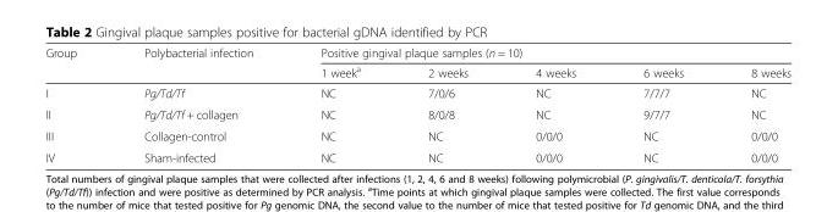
<table><thead><tr><td rowspan="2">Group</td><td rowspan="2">Polybacterial infection</td><td colspan="5">Positive gingival plaque samples (n = 10)</td></tr><tr><td>1 week<sup>a</sup></td><td>2 weeks</td><td>4 weeks</td><td>6 weeks</td><td>8 weeks</td></tr></thead><tbody><tr><td>I</td><td>Pg/Td/Tf</td><td>NC</td><td>7/0/6</td><td>NC</td><td>7/7/7</td><td>NC</td></tr><tr><td>II</td><td>Pg/Td/Tf + collagen</td><td>NC</td><td>8/0/8</td><td>NC</td><td>9/7/7</td><td>NC</td></tr><tr><td>III</td><td>Collagen-control</td><td>NC</td><td>NC</td><td>0/0/0</td><td>NC</td><td>0/0/0</td></tr><tr><td>IV</td><td>Sham-infected</td><td>NC</td><td>NC</td><td>0/0/0</td><td>NC</td><td>0/0/0</td></tr></tbody></table>